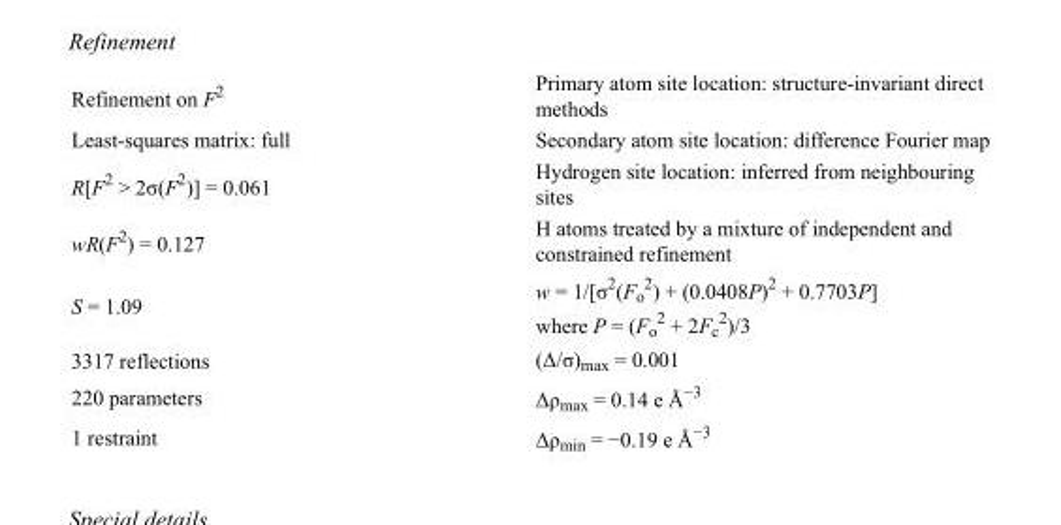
<table><tbody><tr><td>Refinement on F<sup>2</sup></td><td>Primary atom site location: structure-invariant direct methods</td></tr><tr><td>Least-squares matrix: full</td><td>Secondary atom site location: difference Fourier map</td></tr><tr><td>R[F<sup>2</sup> &gt; 2σ(F<sup>2</sup>)] = 0.061</td><td>Hydrogen site location: inferred from neighbouring sites</td></tr><tr><td>wR(F<sup>2</sup>) = 0.127</td><td>H atoms treated by a mixture of independent and constrained refinement</td></tr><tr><td>S = 1.09</td><td>w = 1/[σ<sup>2</sup>(F<sub>o</sub> <sup>2</sup>) + (0.0408P)<sup>2</sup> + 0.7703P] where P = (F<sub>o</sub> <sup>2</sup> + 2F<sub>c</sub> <sup>2</sup>)/3</td></tr><tr><td>3317 reflections</td><td>(Δ/σ)<sub>max</sub> = 0.001</td></tr><tr><td>220 parameters</td><td>Δρ<sub>max</sub> = 0.14 e Å<sup>−3</sup></td></tr><tr><td>1 restraint</td><td>Δρ<sub>min</sub> = −0.19 e Å<sup>−3</sup></td></tr></tbody></table>